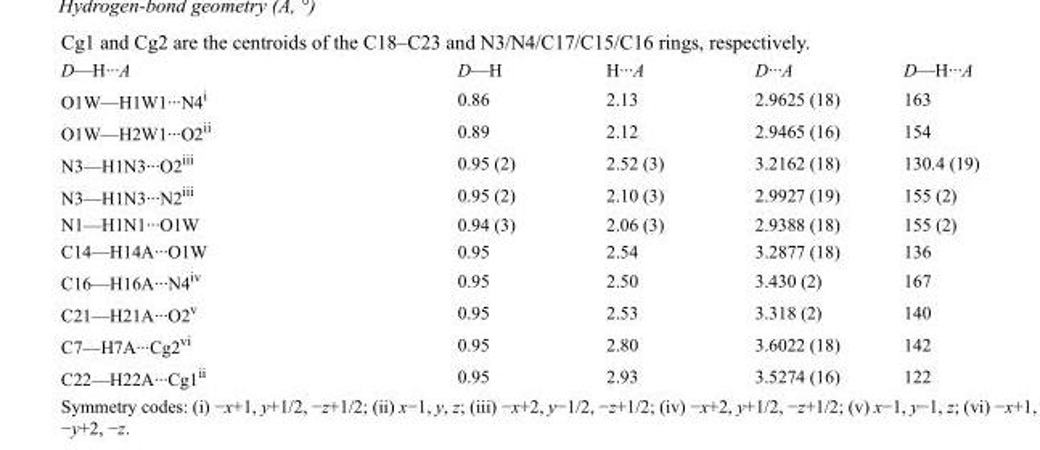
<table><tbody><tr><td>D—H···A</td><td>D—H</td><td>H···A</td><td>D···A</td><td>D—H···A</td></tr><tr><td>O1W—H1W1···N4<sup>i</sup></td><td>0.86</td><td>2.13</td><td>2.9625 (18)</td><td>163</td></tr><tr><td>O1W—H2W1···O2<sup>ii</sup></td><td>0.89</td><td>2.12</td><td>2.9465 (16)</td><td>154</td></tr><tr><td>N3—H1N3···O2<sup>iii</sup></td><td>0.95 (2)</td><td>2.52 (3)</td><td>3.2162 (18)</td><td>130.4 (19)</td></tr><tr><td>N3—H1N3···N2<sup>iii</sup></td><td>0.95 (2)</td><td>2.10 (3)</td><td>2.9927 (19)</td><td>155 (2)</td></tr><tr><td>N1—H1N1···O1W</td><td>0.94 (3)</td><td>2.06 (3)</td><td>2.9388 (18)</td><td>155 (2)</td></tr><tr><td>C14—H14A···O1W</td><td>0.95</td><td>2.54</td><td>3.2877 (18)</td><td>136</td></tr><tr><td>C16—H16A···N4<sup>iv</sup></td><td>0.95</td><td>2.50</td><td>3.430 (2)</td><td>167</td></tr><tr><td>C21—H21A···O2<sup>v</sup></td><td>0.95</td><td>2.53</td><td>3.318 (2)</td><td>140</td></tr><tr><td>C7—H7A···Cg2<sup>vi</sup></td><td>0.95</td><td>2.80</td><td>3.6022 (18)</td><td>142</td></tr><tr><td>C22—H22A···Cg1<sup>ii</sup></td><td>0.95</td><td>2.93</td><td>3.5274 (16)</td><td>122</td></tr></tbody></table>